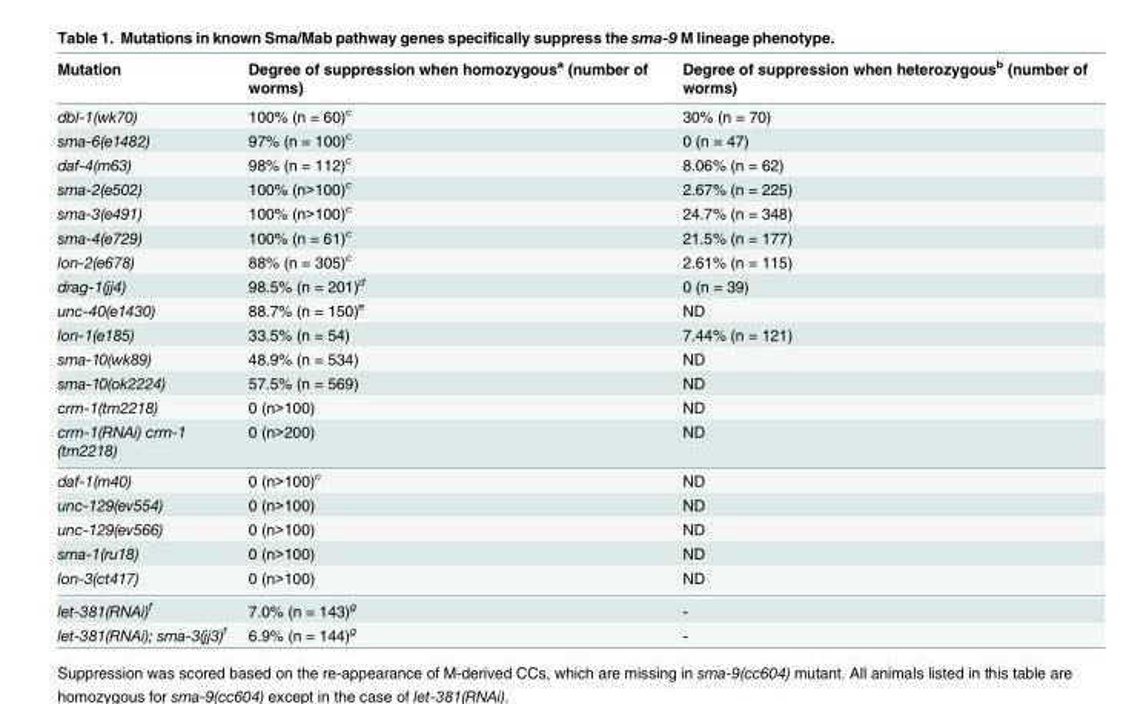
<table><thead><tr><td>Mutation</td><td>Degree of suppression when homozygous<sup>a</sup> (number of worms)</td><td>Degree of suppression when heterozygous<sup>b</sup> (number of worms)</td></tr></thead><tbody><tr><td>dbl-1(wk70)</td><td>100% (n = 60)<sup>c</sup></td><td>30% (n = 70)</td></tr><tr><td>sma-6(e1482)</td><td>97% (n = 100)<sup>c</sup></td><td>0 (n = 47)</td></tr><tr><td>daf-4(m63)</td><td>98% (n = 112)<sup>c</sup></td><td>8.06% (n = 62)</td></tr><tr><td>sma-2(e502)</td><td>100% (n&gt;100)<sup>c</sup></td><td>2.67% (n = 225)</td></tr><tr><td>sma-3(e491)</td><td>100% (n&gt;100)<sup>c</sup></td><td>24.7% (n = 348)</td></tr><tr><td>sma-4(e729)</td><td>100% (n = 61)<sup>c</sup></td><td>21.5% (n = 177)</td></tr><tr><td>lon-2(e678)</td><td>88% (n = 305)<sup>c</sup></td><td>2.61% (n = 115)</td></tr><tr><td>drag-1(jj4)</td><td>98.5% (n = 201)<sup>d</sup></td><td>0 (n = 39)</td></tr><tr><td>unc-40(e1430)</td><td>88.7% (n = 150)<sup>e</sup></td><td>ND</td></tr><tr><td>lon-1(e185)</td><td>33.5% (n = 54)</td><td>7.44% (n = 121)</td></tr><tr><td>sma-10(wk89)</td><td>48.9% (n = 534)</td><td>ND</td></tr><tr><td>sma-10(ok2224)</td><td>57.5% (n = 569)</td><td>ND</td></tr><tr><td>crm-1(tm2218)</td><td>0 (n&gt;100)</td><td>ND</td></tr><tr><td>crm-1(RNAi) crm-1 (tm2218)</td><td>0 (n&gt;200)</td><td>ND</td></tr><tr><td>daf-1(m40)</td><td>0 (n&gt;100)<sup>c</sup></td><td>ND</td></tr><tr><td>unc-129(ev554)</td><td>0 (n&gt;100)</td><td>ND</td></tr><tr><td>unc-129(ev566)</td><td>0 (n&gt;100)</td><td>ND</td></tr><tr><td>sma-1(ru18)</td><td>0 (n&gt;100)</td><td>ND</td></tr><tr><td>lon-3(ct417)</td><td>0 (n&gt;100)</td><td>ND</td></tr><tr><td>let-381(RNAi)<sup>f</sup></td><td>7.0% (n = 143)<sup>g</sup></td><td>-</td></tr><tr><td>let-381(RNAi); sma-3(jj3)<sup>f</sup></td><td>6.9% (n = 144)<sup>g</sup></td><td>-</td></tr></tbody></table>